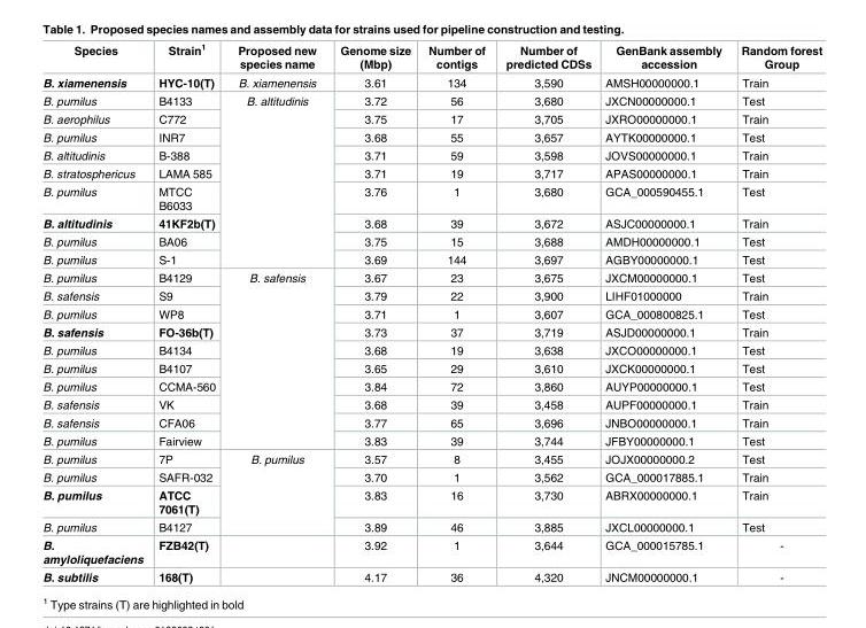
<table><thead><tr><td>Species</td><td>Strain<sup>1</sup></td><td>Proposed new species name</td><td>Genome size (Mbp)</td><td>Number of contigs</td><td>Number of predicted CDSs</td><td>GenBank assembly accession</td><td>Random forest Group</td></tr></thead><tbody><tr><td>B. xiamenensis</td><td>HYC-10(T)</td><td>B. xiamenensis</td><td>3.61</td><td>134</td><td>3,590</td><td>AMSH00000000.1</td><td>Train</td></tr><tr><td>B. pumilus</td><td>B4133</td><td rowspan="9">B. altitudinis</td><td>3.72</td><td>56</td><td>3,680</td><td>JXCN00000000.1</td><td>Test</td></tr><tr><td>B. aerophilus</td><td>C772</td><td>3.75</td><td>17</td><td>3,705</td><td>JXRO00000000.1</td><td>Train</td></tr><tr><td>B. pumilus</td><td>INR7</td><td>3.68</td><td>55</td><td>3,657</td><td>AYTK00000000.1</td><td>Test</td></tr><tr><td>B. altitudinis</td><td>B-388</td><td>3.71</td><td>59</td><td>3,598</td><td>JOVS00000000.1</td><td>Train</td></tr><tr><td>B. stratosphericus</td><td>LAMA 585</td><td>3.71</td><td>19</td><td>3,717</td><td>APAS00000000.1</td><td>Train</td></tr><tr><td>B. pumilus</td><td>MTCC B6033</td><td>3.76</td><td>1</td><td>3,680</td><td>GCA_000590455.1</td><td>Test</td></tr><tr><td>B. altitudinis</td><td>41KF2b(T)</td><td>3.68</td><td>39</td><td>3,672</td><td>ASJC00000000.1</td><td>Train</td></tr><tr><td>B. pumilus</td><td>BA06</td><td>3.75</td><td>15</td><td>3,688</td><td>AMDH00000000.1</td><td>Test</td></tr><tr><td>B. pumilus</td><td>S-1</td><td>3.69</td><td>144</td><td>3,697</td><td>AGBY00000000.1</td><td>Test</td></tr><tr><td>B. pumilus</td><td>B4129</td><td rowspan="10">B. safensis</td><td>3.67</td><td>23</td><td>3,675</td><td>JXCM00000000.1</td><td>Test</td></tr><tr><td>B. safensis</td><td>S9</td><td>3.79</td><td>22</td><td>3,900</td><td>LIHF01000000</td><td>Train</td></tr><tr><td>B. pumilus</td><td>WP8</td><td>3.71</td><td>1</td><td>3,607</td><td>GCA_000800825.1</td><td>Test</td></tr><tr><td>B. safensis</td><td>FO-36b(T)</td><td>3.73</td><td>37</td><td>3,719</td><td>ASJD00000000.1</td><td>Train</td></tr><tr><td>B. pumilus</td><td>B4134</td><td>3.68</td><td>19</td><td>3,638</td><td>JXCO00000000.1</td><td>Test</td></tr><tr><td>B. pumilus</td><td>B4107</td><td>3.65</td><td>29</td><td>3,610</td><td>JXCK00000000.1</td><td>Test</td></tr><tr><td>B. pumilus</td><td>CCMA-560</td><td>3.84</td><td>72</td><td>3,860</td><td>AUYP00000000.1</td><td>Test</td></tr><tr><td>B. safensis</td><td>VK</td><td>3.68</td><td>39</td><td>3,458</td><td>AUPF00000000.1</td><td>Train</td></tr><tr><td>B. safensis</td><td>CFA06</td><td>3.77</td><td>65</td><td>3,696</td><td>JNBO00000000.1</td><td>Train</td></tr><tr><td>B. pumilus</td><td>Fairview</td><td>3.83</td><td>39</td><td>3,744</td><td>JFBY00000000.1</td><td>Test</td></tr><tr><td>B. pumilus</td><td>7P</td><td rowspan="4">B. pumilus</td><td>3.57</td><td>8</td><td>3,455</td><td>JOJX00000000.2</td><td>Test</td></tr><tr><td>B. pumilus</td><td>SAFR-032</td><td>3.70</td><td>1</td><td>3,562</td><td>GCA_000017885.1</td><td>Train</td></tr><tr><td>B. pumilus</td><td>ATCC 7061(T)</td><td>3.83</td><td>16</td><td>3,730</td><td>ABRX00000000.1</td><td>Train</td></tr><tr><td>B. pumilus</td><td>B4127</td><td>3.89</td><td>46</td><td>3,885</td><td>JXCL00000000.1</td><td>Test</td></tr><tr><td>B. amyloliquefaciens</td><td>FZB42(T)</td><td></td><td>3.92</td><td>1</td><td>3,644</td><td>GCA_000015785.1</td><td>-</td></tr><tr><td>B. subtilis</td><td>168(T)</td><td></td><td>4.17</td><td>36</td><td>4,320</td><td>JNCM00000000.1</td><td>-</td></tr></tbody></table>